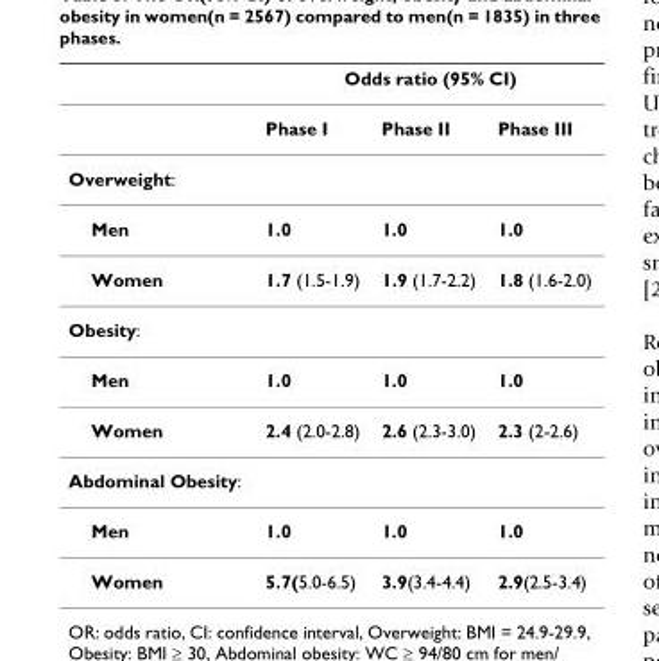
<table><thead><tr><td rowspan="2"></td><td colspan="3">Odds ratio (95% CI)</td></tr><tr><td>Phase I</td><td>Phase II</td><td>Phase III</td></tr></thead><tbody><tr><td colspan="4">Overweight:</td></tr><tr><td>Men</td><td>1.0</td><td>1.0</td><td>1.0</td></tr><tr><td>Women</td><td>1.7 (1.5-1.9)</td><td>1.9 (1.7-2.2)</td><td>1.8 (1.6-2.0)</td></tr><tr><td colspan="4">Obesity:</td></tr><tr><td>Men</td><td>1.0</td><td>1.0</td><td>1.0</td></tr><tr><td>Women</td><td>2.4 (2.0-2.8)</td><td>2.6 (2.3-3.0)</td><td>2.3 (2-2.6)</td></tr><tr><td colspan="4">Abdominal Obesity:</td></tr><tr><td>Men</td><td>1.0</td><td>1.0</td><td>1.0</td></tr><tr><td>Women</td><td>5.7(5.0-6.5)</td><td>3.9(3.4-4.4)</td><td>2.9(2.5-3.4)</td></tr></tbody></table>